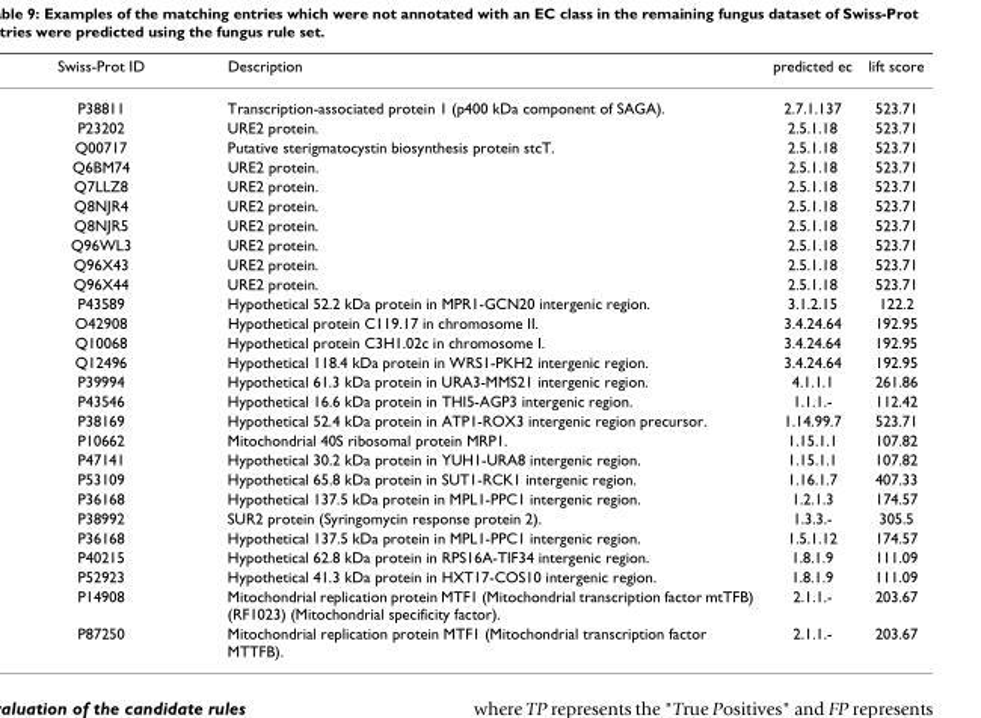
<table><thead><tr><td>Swiss-Prot ID</td><td>Description</td><td>predicted ec</td><td>lift score</td></tr></thead><tbody><tr><td>P38811</td><td>Transcription-associated protein 1 (p400 kDa component of SAGA).</td><td>2.7.1.137</td><td>523.71</td></tr><tr><td>P23202</td><td>URE2 protein.</td><td>2.5.1.18</td><td>523.71</td></tr><tr><td>Q00717</td><td>Putative sterigmatocystin biosynthesis protein stcT.</td><td>2.5.1.18</td><td>523.71</td></tr><tr><td>Q6BM74</td><td>URE2 protein.</td><td>2.5.1.18</td><td>523.71</td></tr><tr><td>Q7LLZ8</td><td>URE2 protein.</td><td>2.5.1.18</td><td>523.71</td></tr><tr><td>Q8NJR4</td><td>URE2 protein.</td><td>2.5.1.18</td><td>523.71</td></tr><tr><td>Q8NJR5</td><td>URE2 protein.</td><td>2.5.1.18</td><td>523.71</td></tr><tr><td>Q96WL3</td><td>URE2 protein.</td><td>2.5.1.18</td><td>523.71</td></tr><tr><td>Q96X43</td><td>URE2 protein.</td><td>2.5.1.18</td><td>523.71</td></tr><tr><td>Q96X44</td><td>URE2 protein.</td><td>2.5.1.18</td><td>523.71</td></tr><tr><td>P43589</td><td>Hypothetical 52.2 kDa protein in MPR1-GCN20 intergenic region.</td><td>3.1.2.15</td><td>122.2</td></tr><tr><td>O42908</td><td>Hypothetical protein C119.17 in chromosome II.</td><td>3.4.24.64</td><td>192.95</td></tr><tr><td>Q10068</td><td>Hypothetical protein C3H1.02c in chromosome I.</td><td>3.4.24.64</td><td>192.95</td></tr><tr><td>Q12496</td><td>Hypothetical 118.4 kDa protein in WRS1-PKH2 intergenic region.</td><td>3.4.24.64</td><td>192.95</td></tr><tr><td>P39994</td><td>Hypothetical 61.3 kDa protein in URA3-MMS21 intergenic region.</td><td>4.1.1.1</td><td>261.86</td></tr><tr><td>P43546</td><td>Hypothetical 16.6 kDa protein in THI5-AGP3 intergenic region.</td><td>1.1.1.-</td><td>112.42</td></tr><tr><td>P38169</td><td>Hypothetical 52.4 kDa protein in ATP1-ROX3 intergenic region precursor.</td><td>1.14.99.7</td><td>523.71</td></tr><tr><td>P10662</td><td>Mitochondrial 40S ribosomal protein MRP1.</td><td>1.15.1.1</td><td>107.82</td></tr><tr><td>P47141</td><td>Hypothetical 30.2 kDa protein in YUH1-URA8 intergenic region.</td><td>1.15.1.1</td><td>107.82</td></tr><tr><td>P53109</td><td>Hypothetical 65.8 kDa protein in SUT1-RCK1 intergenic region.</td><td>1.16.1.7</td><td>407.33</td></tr><tr><td>P36168</td><td>Hypothetical 137.5 kDa protein in MPL1-PPC1 intergenic region.</td><td>1.2.1.3</td><td>174.57</td></tr><tr><td>P38992</td><td>SUR2 protein (Syringomycin response protein 2).</td><td>1.3.3.-</td><td>305.5</td></tr><tr><td>P36168</td><td>Hypothetical 137.5 kDa protein in MPL1-PPC1 intergenic region.</td><td>1.5.1.12</td><td>174.57</td></tr><tr><td>P40215</td><td>Hypothetical 62.8 kDa protein in RPS16A-TIF34 intergenic region.</td><td>1.8.1.9</td><td>111.09</td></tr><tr><td>P52923</td><td>Hypothetical 41.3 kDa protein in HXT17-COS10 intergenic region.</td><td>1.8.1.9</td><td>111.09</td></tr><tr><td>P14908</td><td>Mitochondrial replication protein MTF1 (Mitochondrial transcription factor mtTFB) (RF1023) (Mitochondrial specificity factor).</td><td>2.1.1.-</td><td>203.67</td></tr><tr><td>P87250</td><td>Mitochondrial replication protein MTF1 (Mitochondrial transcription factor MTTFB).</td><td>2.1.1.-</td><td>203.67</td></tr></tbody></table>